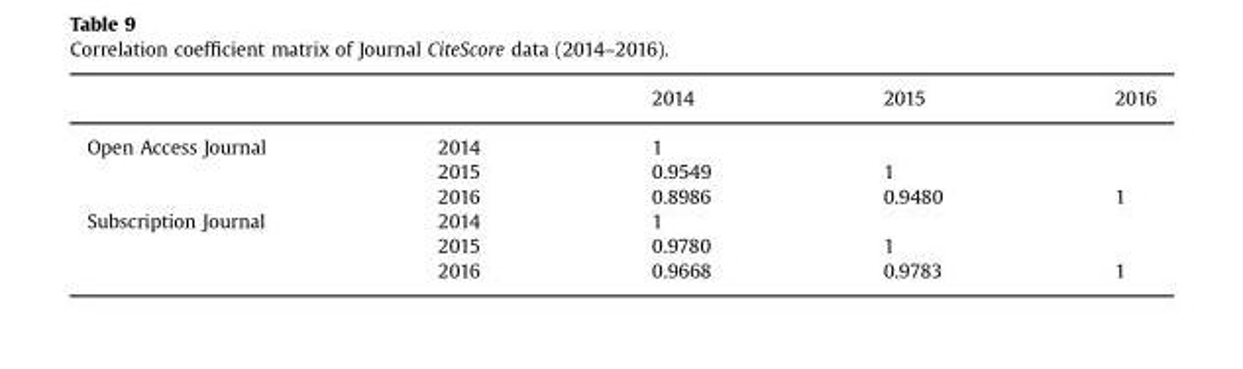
<table><thead><tr><td></td><td></td><td>2014</td><td>2015</td><td>2016</td></tr></thead><tbody><tr><td rowspan="3">Open Access Journal</td><td>2014</td><td>1</td><td></td><td></td></tr><tr><td>2015</td><td>0.9549</td><td>1</td><td></td></tr><tr><td>2016</td><td>0.8986</td><td>0.9480</td><td>1</td></tr><tr><td rowspan="3">Subscription Journal</td><td>2014</td><td>1</td><td></td><td></td></tr><tr><td>2015</td><td>0.9780</td><td>1</td><td></td></tr><tr><td>2016</td><td>0.9668</td><td>0.9783</td><td>1</td></tr></tbody></table>